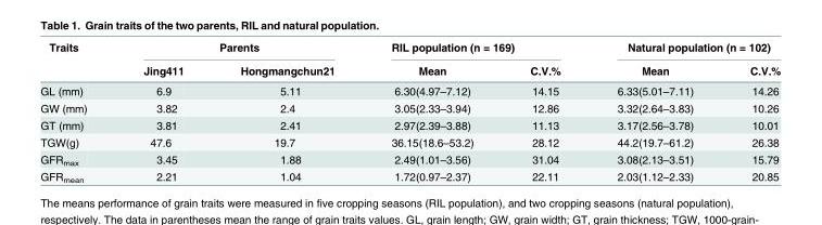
<table><thead><tr><td rowspan="2">Traits</td><td colspan="2">Parents</td><td colspan="2">RIL population (n = 169)</td><td colspan="2">Natural population (n = 102)</td></tr><tr><td>Jing411</td><td>Hongmangchun21</td><td>Mean</td><td>C.V.%</td><td>Mean</td><td>C.V.%</td></tr></thead><tbody><tr><td>GL (mm)</td><td>6.9</td><td>5.11</td><td>6.30(4.97–7.12)</td><td>14.15</td><td>6.33(5.01–7.11)</td><td>14.26</td></tr><tr><td>GW (mm)</td><td>3.82</td><td>2.4</td><td>3.05(2.33–3.94)</td><td>12.86</td><td>3.32(2.64–3.83)</td><td>10.26</td></tr><tr><td>GT (mm)</td><td>3.81</td><td>2.41</td><td>2.97(2.39–3.88)</td><td>11.13</td><td>3.17(2.56–3.78)</td><td>10.01</td></tr><tr><td>TGW(g)</td><td>47.6</td><td>19.7</td><td>36.15(18.6–53.2)</td><td>28.12</td><td>44.2(19.7–61.2)</td><td>26.38</td></tr><tr><td>GFR<sub>max</sub></td><td>3.45</td><td>1.88</td><td>2.49(1.01–3.56)</td><td>31.04</td><td>3.08(2.13–3.51)</td><td>15.79</td></tr><tr><td>GFR<sub>mean</sub></td><td>2.21</td><td>1.04</td><td>1.72(0.97–2.37)</td><td>22.11</td><td>2.03(1.12–2.33)</td><td>20.85</td></tr></tbody></table>